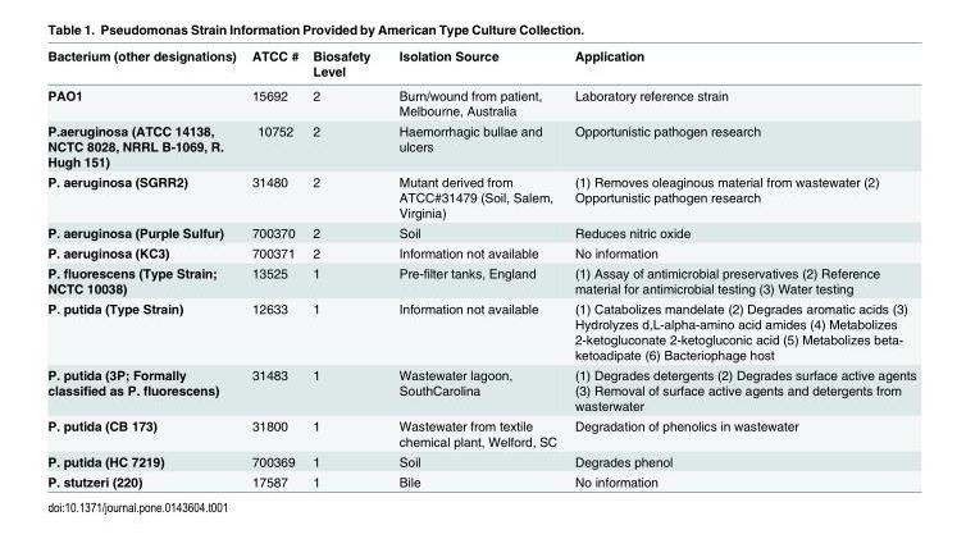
<table><thead><tr><td>Bacterium (other designations)</td><td>ATCC #</td><td>Biosafety Level</td><td>Isolation Source</td><td>Application</td></tr></thead><tbody><tr><td>PAO1</td><td>15692</td><td>2</td><td>Burn/wound from patient, Melbourne, Australia</td><td>Laboratory reference strain</td></tr><tr><td>P.aeruginosa (ATCC 14138, NCTC 8028, NRRL B-1069, R. Hugh 151)</td><td>10752</td><td>2</td><td>Haemorrhagic bullae and ulcers</td><td>Opportunistic pathogen research</td></tr><tr><td>P. aeruginosa (SGRR2)</td><td>31480</td><td>2</td><td>Mutant derived from ATCC#31479 (Soil, Salem, Virginia)</td><td>(1) Removes oleaginous material from wastewater (2) Opportunistic pathogen research</td></tr><tr><td>P. aeruginosa (Purple Sulfur)</td><td>700370</td><td>2</td><td>Soil</td><td>Reduces nitric oxide</td></tr><tr><td>P. aeruginosa (KC3)</td><td>700371</td><td>2</td><td>Information not available</td><td>No information</td></tr><tr><td>P. fluorescens (Type Strain; NCTC 10038)</td><td>13525</td><td>1</td><td>Pre-filter tanks, England</td><td>(1) Assay of antimicrobial preservatives (2) Reference material for antimicrobial testing (3) Water testing</td></tr><tr><td>P. putida (Type Strain)</td><td>12633</td><td>1</td><td>Information not available</td><td>(1) Catabolizes mandelate (2) Degrades aromatic acids (3) Hydrolyzes d,L-alpha-amino acid amides (4) Metabolizes 2-ketogluconate 2-ketogluconic acid (5) Metabolizes beta- ketoadipate (6) Bacteriophage host</td></tr><tr><td>P. putida (3P; Formally classified as P. fluorescens)</td><td>31483</td><td>1</td><td>Wastewater lagoon, SouthCarolina</td><td>(1) Degrades detergents (2) Degrades surface active agents (3) Removal of surface active agents and detergents from wasterwater</td></tr><tr><td>P. putida (CB 173)</td><td>31800</td><td>1</td><td>Wastewater from textile chemical plant, Welford, SC</td><td>Degradation of phenolics in wastewater</td></tr><tr><td>P. putida (HC 7219)</td><td>700369</td><td>1</td><td>Soil</td><td>Degrades phenol</td></tr><tr><td>P. stutzeri (220)</td><td>17587</td><td>1</td><td>Bile</td><td>No information</td></tr></tbody></table>